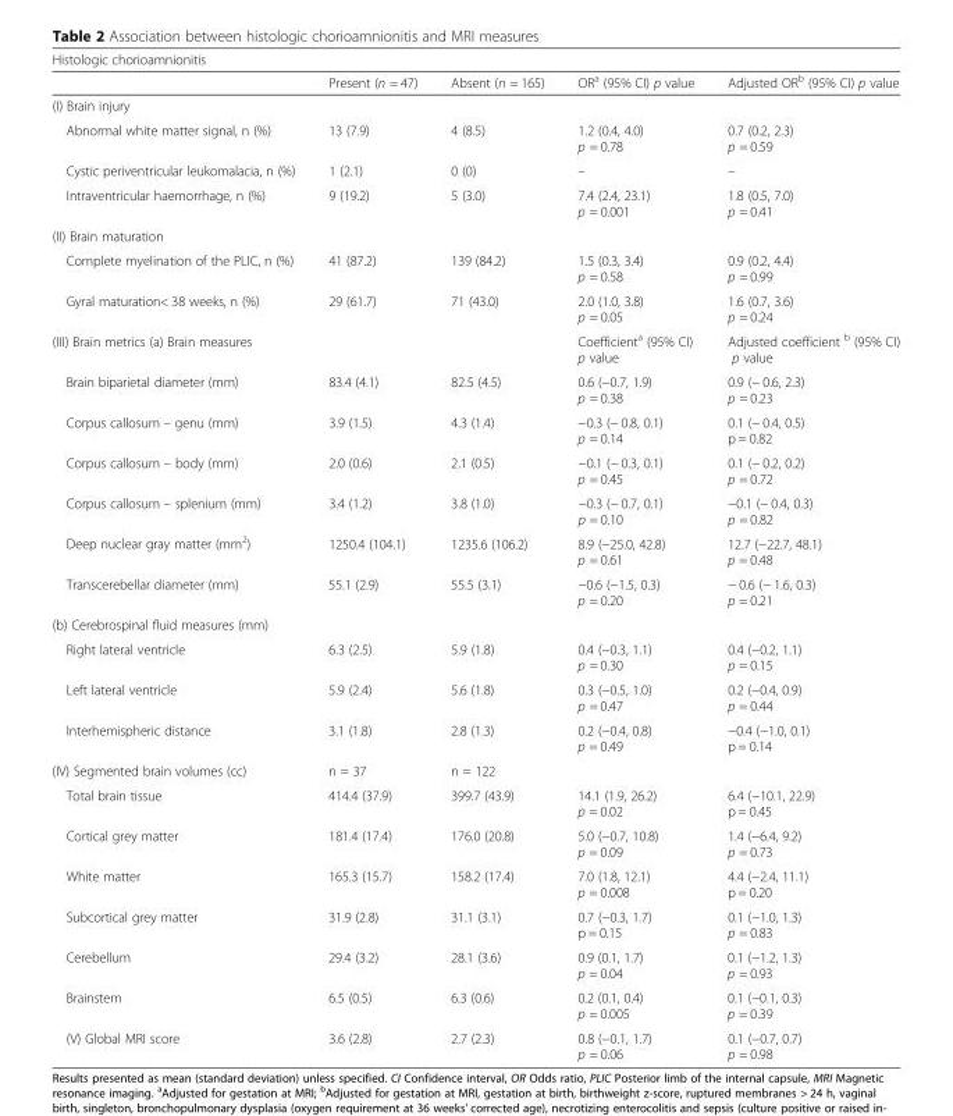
<table><thead><tr><td colspan="5">Histologic chorioamnionitis</td></tr><tr><td></td><td>Present (n = 47)</td><td>Absent (n = 165)</td><td>OR<sup>a</sup> (95% CI) p value</td><td>Adjusted OR<sup>b</sup> (95% CI) p value</td></tr></thead><tbody><tr><td colspan="5">(I) Brain injury</td></tr><tr><td>Abnormal white matter signal, n (%)</td><td>13 (7.9)</td><td>4 (8.5)</td><td>1.2 (0.4, 4.0) p = 0.78</td><td>0.7 (0.2, 2.3) p = 0.59</td></tr><tr><td>Cystic periventricular leukomalacia, n (%)</td><td>1 (2.1)</td><td>0 (0)</td><td>–</td><td>–</td></tr><tr><td>Intraventricular haemorrhage, n (%)</td><td>9 (19.2)</td><td>5 (3.0)</td><td>7.4 (2.4, 23.1) p = 0.001</td><td>1.8 (0.5, 7.0) p = 0.41</td></tr><tr><td colspan="5">(II) Brain maturation</td></tr><tr><td>Complete myelination of the PLIC, n (%)</td><td>41 (87.2)</td><td>139 (84.2)</td><td>1.5 (0.3, 3.4) p = 0.58</td><td>0.9 (0.2, 4.4) p = 0.99</td></tr><tr><td>Gyral maturation&lt; 38 weeks, n (%)</td><td>29 (61.7)</td><td>71 (43.0)</td><td>2.0 (1.0, 3.8) p = 0.05</td><td>1.6 (0.7, 3.6) p = 0.24</td></tr><tr><td>(III) Brain metrics (a) Brain measures</td><td></td><td></td><td>Coefficient<sup>a</sup> (95% CI) p value</td><td>Adjusted coefficient <sup>b</sup> (95% CI) p value</td></tr><tr><td>Brain biparietal diameter (mm)</td><td>83.4 (4.1)</td><td>82.5 (4.5)</td><td>0.6 (−0.7, 1.9) p = 0.38</td><td>0.9 (− 0.6, 2.3) p = 0.23</td></tr><tr><td>Corpus callosum – genu (mm)</td><td>3.9 (1.5)</td><td>4.3 (1.4)</td><td>−0.3 (− 0.8, 0.1) p = 0.14</td><td>0.1 (− 0.4, 0.5) p = 0.82</td></tr><tr><td>Corpus callosum – body (mm)</td><td>2.0 (0.6)</td><td>2.1 (0.5)</td><td>−0.1 (− 0.3, 0.1) p = 0.45</td><td>0.1 (− 0.2, 0.2) p = 0.72</td></tr><tr><td>Corpus callosum – splenium (mm)</td><td>3.4 (1.2)</td><td>3.8 (1.0)</td><td>−0.3 (− 0.7, 0.1) p = 0.10</td><td>−0.1 (− 0.4, 0.3) p = 0.82</td></tr><tr><td>Deep nuclear gray matter (mm<sup>2</sup>)</td><td>1250.4 (104.1)</td><td>1235.6 (106.2)</td><td>8.9 (−25.0, 42.8) p = 0.61</td><td>12.7 (−22.7, 48.1) p = 0.48</td></tr><tr><td>Transcerebellar diameter (mm)</td><td>55.1 (2.9)</td><td>55.5 (3.1)</td><td>−0.6 (−1.5, 0.3) p = 0.20</td><td>− 0.6 (− 1.6, 0.3) p = 0.21</td></tr><tr><td colspan="5">(b) Cerebrospinal fluid measures (mm)</td></tr><tr><td>Right lateral ventricle</td><td>6.3 (2.5)</td><td>5.9 (1.8)</td><td>0.4 (−0.3, 1.1) p = 0.30</td><td>0.4 (−0.2, 1.1) p = 0.15</td></tr><tr><td>Left lateral ventricle</td><td>5.9 (2.4)</td><td>5.6 (1.8)</td><td>0.3 (−0.5, 1.0) p = 0.47</td><td>0.2 (−0.4, 0.9) p = 0.44</td></tr><tr><td>Interhemispheric distance</td><td>3.1 (1.8)</td><td>2.8 (1.3)</td><td>0.2 (−0.4, 0.8) p = 0.49</td><td>−0.4 (−1.0, 0.1) p = 0.14</td></tr><tr><td>(IV) Segmented brain volumes (cc)</td><td>n = 37</td><td>n = 122</td><td></td><td></td></tr><tr><td>Total brain tissue</td><td>414.4 (37.9)</td><td>399.7 (43.9)</td><td>14.1 (1.9, 26.2) p = 0.02</td><td>6.4 (−10.1, 22.9) p = 0.45</td></tr><tr><td>Cortical grey matter</td><td>181.4 (17.4)</td><td>176.0 (20.8)</td><td>5.0 (−0.7, 10.8) p = 0.09</td><td>1.4 (−6.4, 9.2) p = 0.73</td></tr><tr><td>White matter</td><td>165.3 (15.7)</td><td>158.2 (17.4)</td><td>7.0 (1.8, 12.1) p = 0.008</td><td>4.4 (−2.4, 11.1) p = 0.20</td></tr><tr><td>Subcortical grey matter</td><td>31.9 (2.8)</td><td>31.1 (3.1)</td><td>0.7 (−0.3, 1.7) p = 0.15</td><td>0.1 (−1.0, 1.3) p = 0.83</td></tr><tr><td>Cerebellum</td><td>29.4 (3.2)</td><td>28.1 (3.6)</td><td>0.9 (0.1, 1.7) p = 0.04</td><td>0.1 (−1.2, 1.3) p = 0.93</td></tr><tr><td>Brainstem</td><td>6.5 (0.5)</td><td>6.3 (0.6)</td><td>0.2 (0.1, 0.4) p = 0.005</td><td>0.1 (−0.1, 0.3) p = 0.39</td></tr><tr><td>(V) Global MRI score</td><td>3.6 (2.8)</td><td>2.7 (2.3)</td><td>0.8 (−0.1, 1.7) p = 0.06</td><td>0.1 (−0.7, 0.7) p = 0.98</td></tr></tbody></table>